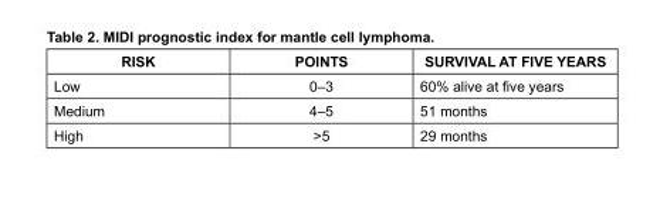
<table><thead><tr><td>RISK</td><td>POINTS</td><td>SURVIVAL AT FIVE YEARS</td></tr></thead><tbody><tr><td>Low</td><td>0–3</td><td>60% alive at five years</td></tr><tr><td>Medium</td><td>4–5</td><td>51 months</td></tr><tr><td>High</td><td>&gt;5</td><td>29 months</td></tr></tbody></table>